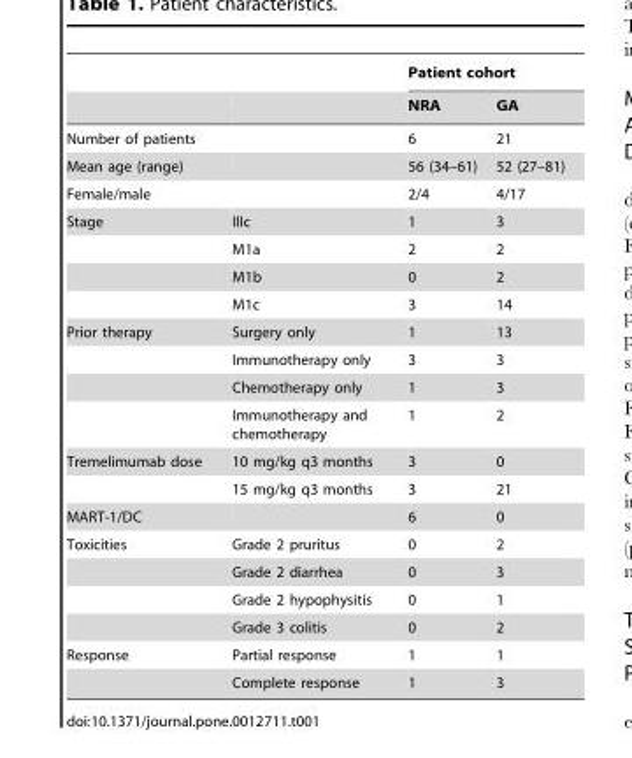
<table><thead><tr><td rowspan="2"></td><td rowspan="2"></td><td colspan="2">Patient cohort</td></tr><tr><td>NRA</td><td>GA</td></tr></thead><tbody><tr><td>Number of patients</td><td></td><td>6</td><td>21</td></tr><tr><td>Mean age (range)</td><td></td><td>56 (34–61)</td><td>52 (27–81)</td></tr><tr><td>Female/male</td><td></td><td>2/4</td><td>4/17</td></tr><tr><td rowspan="4">Stage</td><td>IIIc</td><td>1</td><td>3</td></tr><tr><td>M1a</td><td>2</td><td>2</td></tr><tr><td>M1b</td><td>0</td><td>2</td></tr><tr><td>M1c</td><td>3</td><td>14</td></tr><tr><td rowspan="4">Prior therapy</td><td>Surgery only</td><td>1</td><td>13</td></tr><tr><td>Immunotherapy only</td><td>3</td><td>3</td></tr><tr><td>Chemotherapy only</td><td>1</td><td>3</td></tr><tr><td>Immunotherapy and chemotherapy</td><td>1</td><td>2</td></tr><tr><td rowspan="2">Tremelimumab dose</td><td>10 mg/kg q3 months</td><td>3</td><td>0</td></tr><tr><td>15 mg/kg q3 months</td><td>3</td><td>21</td></tr><tr><td>MART-1/DC</td><td></td><td>6</td><td>0</td></tr><tr><td rowspan="4">Toxicities</td><td>Grade 2 pruritus</td><td>0</td><td>2</td></tr><tr><td>Grade 2 diarrhea</td><td>0</td><td>3</td></tr><tr><td>Grade 2 hypophysitis</td><td>0</td><td>1</td></tr><tr><td>Grade 3 colitis</td><td>0</td><td>2</td></tr><tr><td rowspan="2">Response</td><td>Partial response</td><td>1</td><td>1</td></tr><tr><td>Complete response</td><td>1</td><td>3</td></tr></tbody></table>